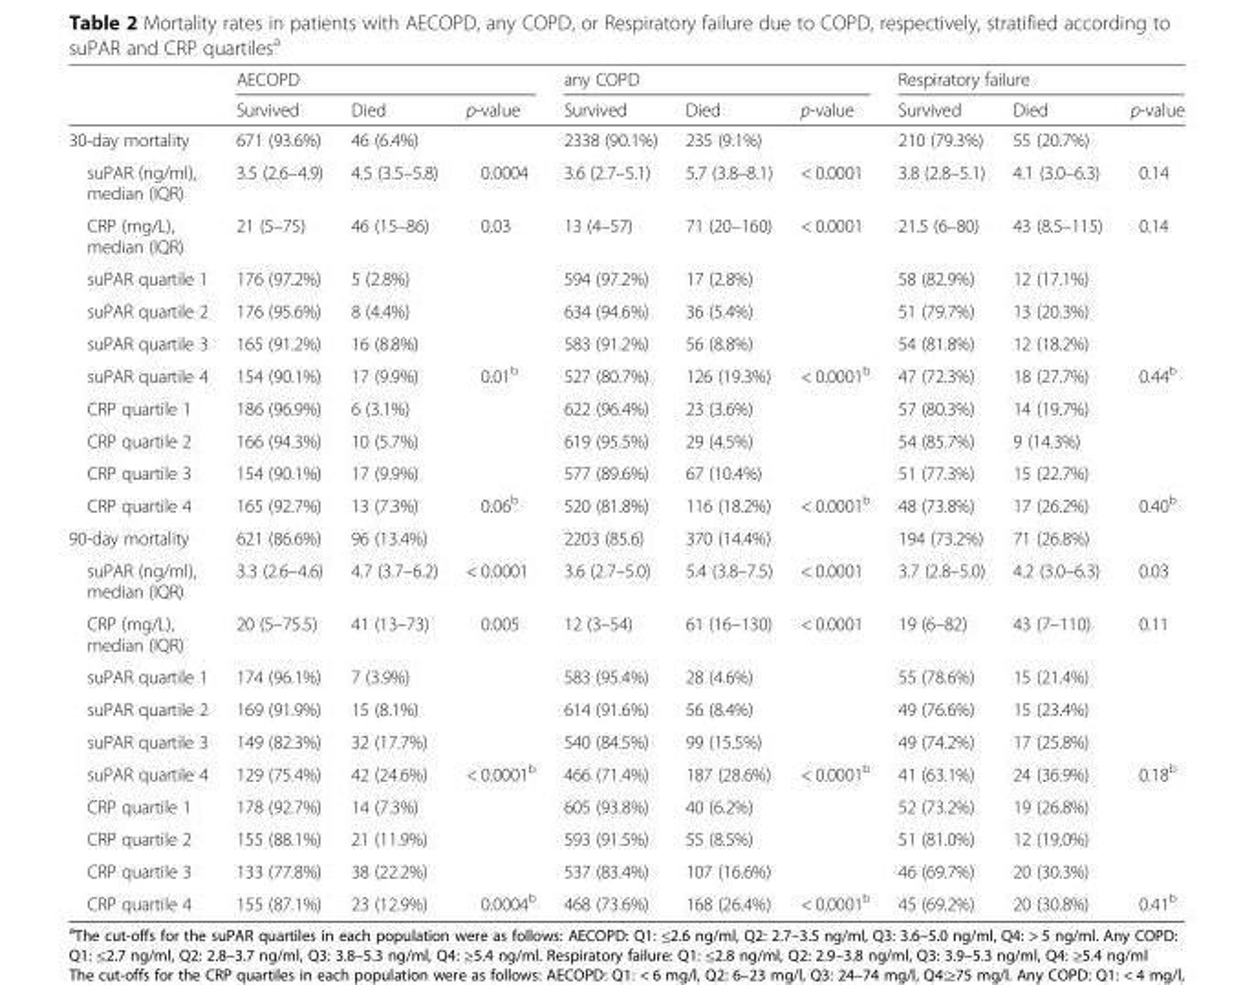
<table><thead><tr><td rowspan="2"></td><td colspan="3">AECOPD</td><td colspan="3">any COPD</td><td colspan="3">Respiratory failure</td></tr><tr><td>Survived</td><td>Died</td><td>p-value</td><td>Survived</td><td>Died</td><td>p-value</td><td>Survived</td><td>Died</td><td>p-value</td></tr></thead><tbody><tr><td>30-day mortality</td><td>671 (93.6%)</td><td>46 (6.4%)</td><td></td><td>2338 (90.1%)</td><td>235 (9.1%)</td><td></td><td>210 (79.3%)</td><td>55 (20.7%)</td><td></td></tr><tr><td>suPAR (ng/ml), median (IQR)</td><td>3.5 (2.6–4.9)</td><td>4.5 (3.5–5.8)</td><td>0.0004</td><td>3.6 (2.7–5.1)</td><td>5.7 (3.8–8.1)</td><td>&lt; 0.0001</td><td>3.8 (2.8–5.1)</td><td>4.1 (3.0–6.3)</td><td>0.14</td></tr><tr><td>CRP (mg/L), median (IQR)</td><td>21 (5–75)</td><td>46 (15–86)</td><td>0.03</td><td>13 (4–57)</td><td>71 (20–160)</td><td>&lt; 0.0001</td><td>21.5 (6–80)</td><td>43 (8.5–115)</td><td>0.14</td></tr><tr><td>suPAR quartile 1</td><td>176 (97.2%)</td><td>5 (2.8%)</td><td></td><td>594 (97.2%)</td><td>17 (2.8%)</td><td></td><td>58 (82.9%)</td><td>12 (17.1%)</td><td></td></tr><tr><td>suPAR quartile 2</td><td>176 (95.6%)</td><td>8 (4.4%)</td><td></td><td>634 (94.6%)</td><td>36 (5.4%)</td><td></td><td>51 (79.7%)</td><td>13 (20.3%)</td><td></td></tr><tr><td>suPAR quartile 3</td><td>165 (91.2%)</td><td>16 (8.8%)</td><td></td><td>583 (91.2%)</td><td>56 (8.8%)</td><td></td><td>54 (81.8%)</td><td>12 (18.2%)</td><td></td></tr><tr><td>suPAR quartile 4</td><td>154 (90.1%)</td><td>17 (9.9%)</td><td>0.01<sup>b</sup></td><td>527 (80.7%)</td><td>126 (19.3%)</td><td>&lt; 0.0001<sup>b</sup></td><td>47 (72.3%)</td><td>18 (27.7%)</td><td>0.44<sup>b</sup></td></tr><tr><td>CRP quartile 1</td><td>186 (96.9%)</td><td>6 (3.1%)</td><td></td><td>622 (96.4%)</td><td>23 (3.6%)</td><td></td><td>57 (80.3%)</td><td>14 (19.7%)</td><td></td></tr><tr><td>CRP quartile 2</td><td>166 (94.3%)</td><td>10 (5.7%)</td><td></td><td>619 (95.5%)</td><td>29 (4.5%)</td><td></td><td>54 (85.7%)</td><td>9 (14.3%)</td><td></td></tr><tr><td>CRP quartile 3</td><td>154 (90.1%)</td><td>17 (9.9%)</td><td></td><td>577 (89.6%)</td><td>67 (10.4%)</td><td></td><td>51 (77.3%)</td><td>15 (22.7%)</td><td></td></tr><tr><td>CRP quartile 4</td><td>165 (92.7%)</td><td>13 (7.3%)</td><td>0.06<sup>b</sup></td><td>520 (81.8%)</td><td>116 (18.2%)</td><td>&lt; 0.0001<sup>b</sup></td><td>48 (73.8%)</td><td>17 (26.2%)</td><td>0.40<sup>b</sup></td></tr><tr><td>90-day mortality</td><td>621 (86.6%)</td><td>96 (13.4%)</td><td></td><td>2203 (85.6)</td><td>370 (14.4%)</td><td></td><td>194 (73.2%)</td><td>71 (26.8%)</td><td></td></tr><tr><td>suPAR (ng/ml), median (IQR)</td><td>3.3 (2.6–4.6)</td><td>4.7 (3.7–6.2)</td><td>&lt; 0.0001</td><td>3.6 (2.7–5.0)</td><td>5.4 (3.8–7.5)</td><td>&lt; 0.0001</td><td>3.7 (2.8–5.0)</td><td>4.2 (3.0–6.3)</td><td>0.03</td></tr><tr><td>CRP (mg/L), median (IQR)</td><td>20 (5–75.5)</td><td>41 (13–73)</td><td>0.005</td><td>12 (3–54)</td><td>61 (16–130)</td><td>&lt; 0.0001</td><td>19 (6–82)</td><td>43 (7–110)</td><td>0.11</td></tr><tr><td>suPAR quartile 1</td><td>174 (96.1%)</td><td>7 (3.9%)</td><td></td><td>583 (95.4%)</td><td>28 (4.6%)</td><td></td><td>55 (78.6%)</td><td>15 (21.4%)</td><td></td></tr><tr><td>suPAR quartile 2</td><td>169 (91.9%)</td><td>15 (8.1%)</td><td></td><td>614 (91.6%)</td><td>56 (8.4%)</td><td></td><td>49 (76.6%)</td><td>15 (23.4%)</td><td></td></tr><tr><td>suPAR quartile 3</td><td>149 (82.3%)</td><td>32 (17.7%)</td><td></td><td>540 (84.5%)</td><td>99 (15.5%)</td><td></td><td>49 (74.2%)</td><td>17 (25.8%)</td><td></td></tr><tr><td>suPAR quartile 4</td><td>129 (75.4%)</td><td>42 (24.6%)</td><td>&lt; 0.0001<sup>b</sup></td><td>466 (71.4%)</td><td>187 (28.6%)</td><td>&lt; 0.0001<sup>b</sup></td><td>41 (63.1%)</td><td>24 (36.9%)</td><td>0.18<sup>b</sup></td></tr><tr><td>CRP quartile 1</td><td>178 (92.7%)</td><td>14 (7.3%)</td><td></td><td>605 (93.8%)</td><td>40 (6.2%)</td><td></td><td>52 (73.2%)</td><td>19 (26.8%)</td><td></td></tr><tr><td>CRP quartile 2</td><td>155 (88.1%)</td><td>21 (11.9%)</td><td></td><td>593 (91.5%)</td><td>55 (8.5%)</td><td></td><td>51 (81.0%)</td><td>12 (19.0%)</td><td></td></tr><tr><td>CRP quartile 3</td><td>133 (77.8%)</td><td>38 (22.2%)</td><td></td><td>537 (83.4%)</td><td>107 (16.6%)</td><td></td><td>46 (69.7%)</td><td>20 (30.3%)</td><td></td></tr><tr><td>CRP quartile 4</td><td>155 (87.1%)</td><td>23 (12.9%)</td><td>0.0004<sup>b</sup></td><td>468 (73.6%)</td><td>168 (26.4%)</td><td>&lt; 0.0001<sup>b</sup></td><td>45 (69.2%)</td><td>20 (30.8%)</td><td>0.41<sup>b</sup></td></tr></tbody></table>